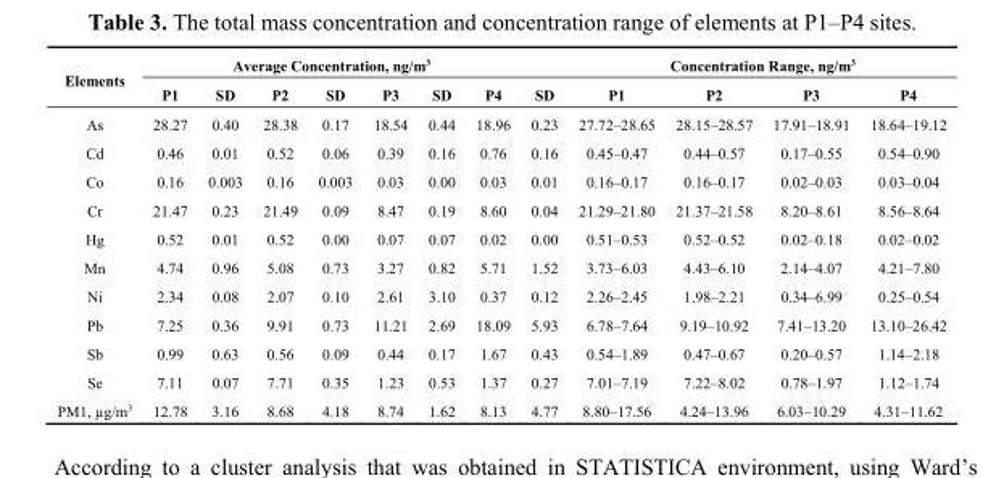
<table><thead><tr><td rowspan="2">Elements</td><td colspan="7">Average Concentration, ng/m<sup>3</sup></td><td rowspan="2">SD</td><td colspan="4">Concentration Range, ng/m<sup>3</sup></td></tr><tr><td>P1</td><td>SD</td><td>P2</td><td>SD</td><td>P3</td><td>SD</td><td>P4</td><td>P1</td><td>P2</td><td>P3</td><td>P4</td></tr></thead><tbody><tr><td>As</td><td>28.27</td><td>0.40</td><td>28.38</td><td>0.17</td><td>18.54</td><td>0.44</td><td>18.96</td><td>0.23</td><td>27.72–28.65</td><td>28.15–28.57</td><td>17.91–18.91</td><td>18.64–19.12</td></tr><tr><td>Cd</td><td>0.46</td><td>0.01</td><td>0.52</td><td>0.06</td><td>0.39</td><td>0.16</td><td>0.76</td><td>0.16</td><td>0.45–0.47</td><td>0.44–0.57</td><td>0.17–0.55</td><td>0.54–0.90</td></tr><tr><td>Co</td><td>0.16</td><td>0.003</td><td>0.16</td><td>0.003</td><td>0.03</td><td>0.00</td><td>0.03</td><td>0.01</td><td>0.16–0.17</td><td>0.16–0.17</td><td>0.02–0.03</td><td>0.03–0.04</td></tr><tr><td>Cr</td><td>21.47</td><td>0.23</td><td>21.49</td><td>0.09</td><td>8.47</td><td>0.19</td><td>8.60</td><td>0.04</td><td>21.29–21.80</td><td>21.37–21.58</td><td>8.20–8.61</td><td>8.56–8.64</td></tr><tr><td>Hg</td><td>0.52</td><td>0.01</td><td>0.52</td><td>0.00</td><td>0.07</td><td>0.07</td><td>0.02</td><td>0.00</td><td>0.51–0.53</td><td>0.52–0.52</td><td>0.02–0.18</td><td>0.02–0.02</td></tr><tr><td>Mn</td><td>4.74</td><td>0.96</td><td>5.08</td><td>0.73</td><td>3.27</td><td>0.82</td><td>5.71</td><td>1.52</td><td>3.73–6.03</td><td>4.43–6.10</td><td>2.14–4.07</td><td>4.21–7.80</td></tr><tr><td>Ni</td><td>2.34</td><td>0.08</td><td>2.07</td><td>0.10</td><td>2.61</td><td>3.10</td><td>0.37</td><td>0.12</td><td>2.26–2.45</td><td>1.98–2.21</td><td>0.34–6.99</td><td>0.25–0.54</td></tr><tr><td>Pb</td><td>7.25</td><td>0.36</td><td>9.91</td><td>0.73</td><td>11.21</td><td>2.69</td><td>18.09</td><td>5.93</td><td>6.78–7.64</td><td>9.19–10.92</td><td>7.41–13.20</td><td>13.10–26.42</td></tr><tr><td>Sb</td><td>0.99</td><td>0.63</td><td>0.56</td><td>0.09</td><td>0.44</td><td>0.17</td><td>1.67</td><td>0.43</td><td>0.54–1.89</td><td>0.47–0.67</td><td>0.20–0.57</td><td>1.14–2.18</td></tr><tr><td>Se</td><td>7.11</td><td>0.07</td><td>7.71</td><td>0.35</td><td>1.23</td><td>0.53</td><td>1.37</td><td>0.27</td><td>7.01–7.19</td><td>7.22–8.02</td><td>0.78–1.97</td><td>1.12–1.74</td></tr><tr><td>PM1, µg/m<sup>3</sup></td><td>12.78</td><td>3.16</td><td>8.68</td><td>4.18</td><td>8.74</td><td>1.62</td><td>8.13</td><td>4.77</td><td>8.80–17.56</td><td>4.24–13.96</td><td>6.03–10.29</td><td>4.31–11.62</td></tr></tbody></table>